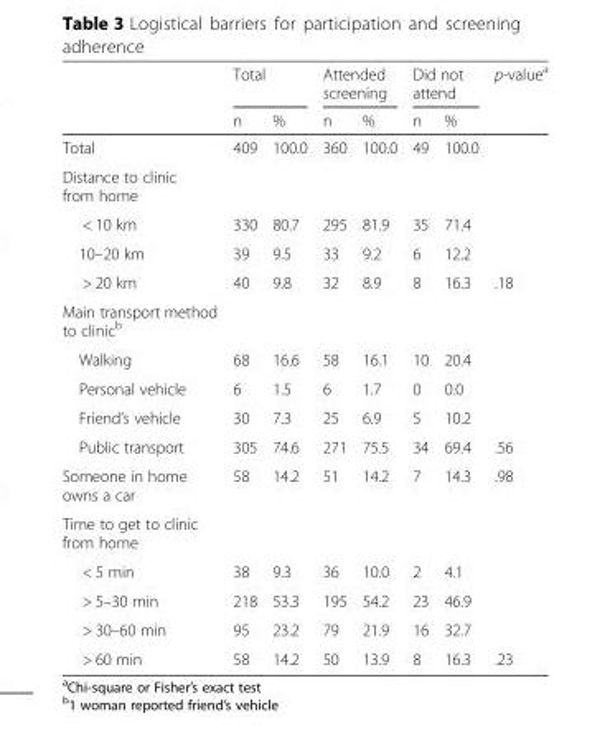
<table><thead><tr><td rowspan="2"></td><td colspan="2">Total</td><td colspan="2">Attended screening</td><td colspan="2">Did not attend</td><td rowspan="2">p-value<sup>a</sup></td></tr><tr><td>n</td><td>%</td><td>n</td><td>%</td><td>n</td><td>%</td></tr></thead><tbody><tr><td>Total</td><td>409</td><td>100.0</td><td>360</td><td>100.0</td><td>49</td><td>100.0</td><td></td></tr><tr><td colspan="8">Distance to clinic from home</td></tr><tr><td>&lt; 10 km</td><td>330</td><td>80.7</td><td>295</td><td>81.9</td><td>35</td><td>71.4</td><td></td></tr><tr><td>10–20 km</td><td>39</td><td>9.5</td><td>33</td><td>9.2</td><td>6</td><td>12.2</td><td></td></tr><tr><td>&gt; 20 km</td><td>40</td><td>9.8</td><td>32</td><td>8.9</td><td>8</td><td>16.3</td><td>.18</td></tr><tr><td colspan="8">Main transport method to clinic<sup>b</sup></td></tr><tr><td>Walking</td><td>68</td><td>16.6</td><td>58</td><td>16.1</td><td>10</td><td>20.4</td><td></td></tr><tr><td>Personal vehicle</td><td>6</td><td>1.5</td><td>6</td><td>1.7</td><td>0</td><td>0.0</td><td></td></tr><tr><td>Friend’s vehicle</td><td>30</td><td>7.3</td><td>25</td><td>6.9</td><td>5</td><td>10.2</td><td></td></tr><tr><td>Public transport</td><td>305</td><td>74.6</td><td>271</td><td>75.5</td><td>34</td><td>69.4</td><td>.56</td></tr><tr><td>Someone in home owns a car</td><td>58</td><td>14.2</td><td>51</td><td>14.2</td><td>7</td><td>14.3</td><td>.98</td></tr><tr><td colspan="8">Time to get to clinic from home</td></tr><tr><td>&lt; 5 min</td><td>38</td><td>9.3</td><td>36</td><td>10.0</td><td>2</td><td>4.1</td><td></td></tr><tr><td>&gt; 5–30 min</td><td>218</td><td>53.3</td><td>195</td><td>54.2</td><td>23</td><td>46.9</td><td></td></tr><tr><td>&gt; 30–60 min</td><td>95</td><td>23.2</td><td>79</td><td>21.9</td><td>16</td><td>32.7</td><td></td></tr><tr><td>&gt; 60 min</td><td>58</td><td>14.2</td><td>50</td><td>13.9</td><td>8</td><td>16.3</td><td>.23</td></tr></tbody></table>